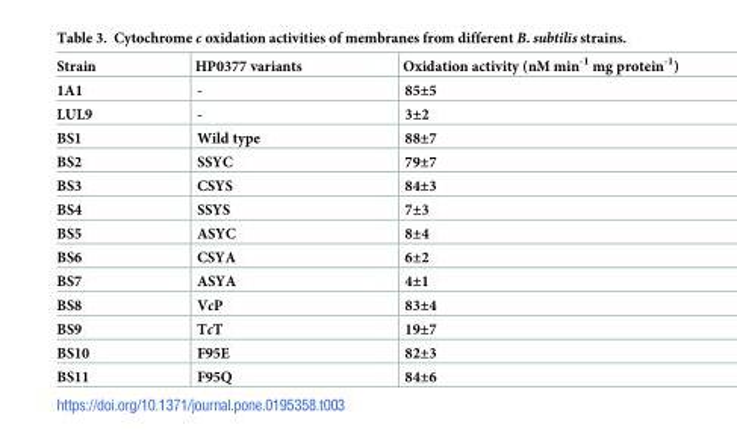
<table><thead><tr><td>Strain</td><td>HP0377 variants</td><td>Oxidation activity (nM min<sup>-1</sup> mg protein<sup>-1</sup>)</td></tr></thead><tbody><tr><td>1A1</td><td>-</td><td>85±5</td></tr><tr><td>LUL9</td><td>-</td><td>3±2</td></tr><tr><td>BS1</td><td>Wild type</td><td>88±7</td></tr><tr><td>BS2</td><td>SSYC</td><td>79±7</td></tr><tr><td>BS3</td><td>CSYS</td><td>84±3</td></tr><tr><td>BS4</td><td>SSYS</td><td>7±3</td></tr><tr><td>BS5</td><td>ASYC</td><td>8±4</td></tr><tr><td>BS6</td><td>CSYA</td><td>6±2</td></tr><tr><td>BS7</td><td>ASYA</td><td>4±1</td></tr><tr><td>BS8</td><td>VcP</td><td>83±4</td></tr><tr><td>BS9</td><td>TcT</td><td>19±7</td></tr><tr><td>BS10</td><td>F95E</td><td>82±3</td></tr><tr><td>BS11</td><td>F95Q</td><td>84±6</td></tr></tbody></table>